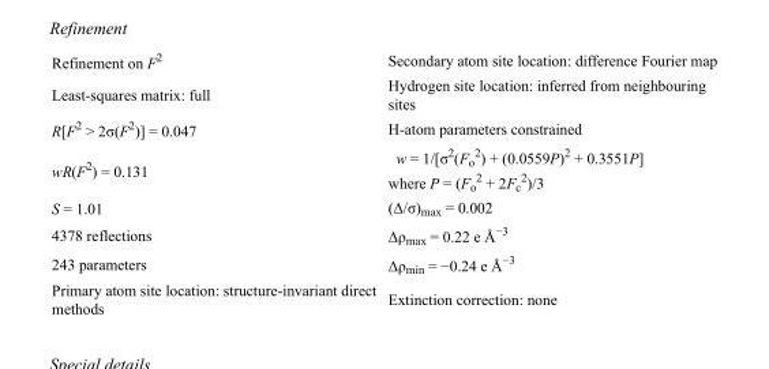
<table><tbody><tr><td>Refinement on F<sup>2</sup></td><td>Secondary atom site location: difference Fourier map</td></tr><tr><td>Least-squares matrix: full</td><td>Hydrogen site location: inferred from neighbouring sites</td></tr><tr><td>R[F<sup>2</sup> &gt; 2σ(F<sup>2</sup>)] = 0.047</td><td>H-atom parameters constrained</td></tr><tr><td>wR(F<sup>2</sup>) = 0.131</td><td>w = 1/[σ<sup>2</sup>(F<sub>o</sub> <sup>2</sup>) + (0.0559P)<sup>2</sup> + 0.3551P] where P = (F<sub>o</sub> <sup>2</sup> + 2F<sub>c</sub> <sup>2</sup>)/3</td></tr><tr><td>S = 1.01</td><td>(Δ/σ)<sub>max</sub> = 0.002</td></tr><tr><td>4378 reflections</td><td>Δρ<sub>max</sub> = 0.22 e Å<sup>−3</sup></td></tr><tr><td>243 parameters</td><td>Δρ<sub>min</sub> = −0.24 e Å<sup>−3</sup></td></tr><tr><td>Primary atom site location: structure-invariant direct methods</td><td>Extinction correction: none</td></tr></tbody></table>